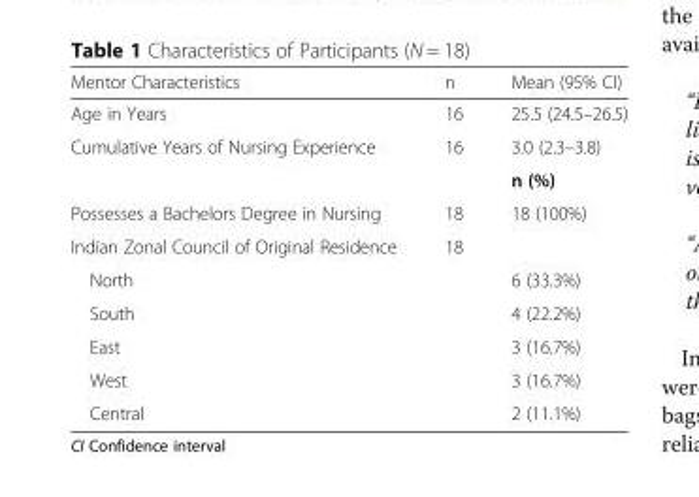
<table><thead><tr><td>Mentor Characteristics</td><td>n</td><td>Mean (95% CI)</td></tr></thead><tbody><tr><td>Age in Years</td><td>16</td><td>25.5 (24.5–26.5)</td></tr><tr><td rowspan="2">Cumulative Years of Nursing Experience</td><td>16</td><td>3.0 (2.3–3.8)</td></tr><tr><td></td><td>n (%)</td></tr><tr><td>Possesses a Bachelors Degree in Nursing</td><td>18</td><td>18 (100%)</td></tr><tr><td>Indian Zonal Council of Original Residence</td><td>18</td><td></td></tr><tr><td>North</td><td></td><td>6 (33.3%)</td></tr><tr><td>South</td><td></td><td>4 (22.2%)</td></tr><tr><td>East</td><td></td><td>3 (16.7%)</td></tr><tr><td>West</td><td></td><td>3 (16.7%)</td></tr><tr><td>Central</td><td></td><td>2 (11.1%)</td></tr></tbody></table>